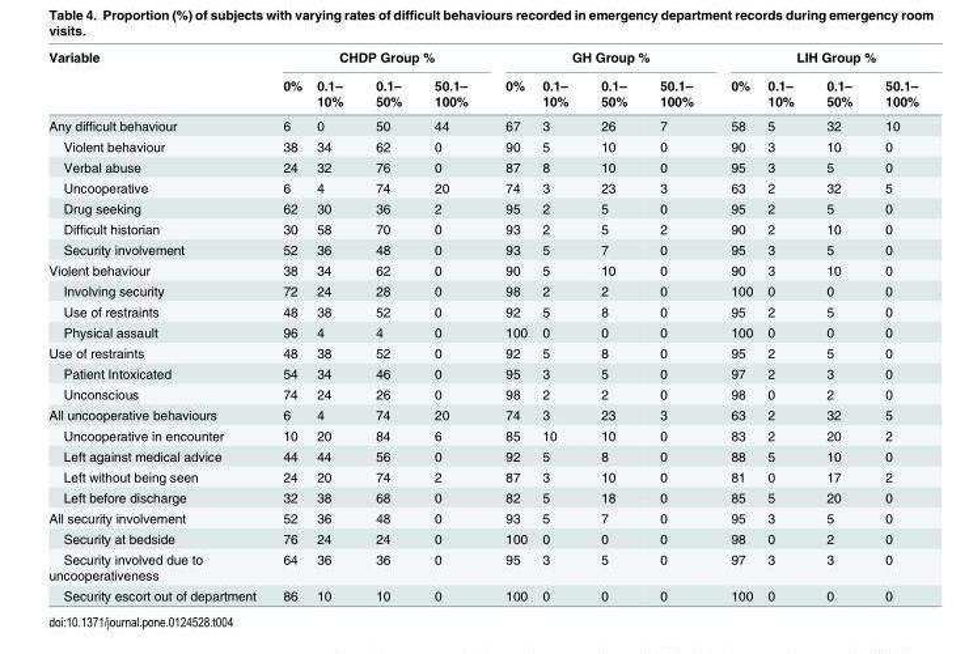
<table><thead><tr><td rowspan="2">Variable</td><td colspan="4">CHDP Group %</td><td colspan="4">GH Group %</td><td colspan="4">LIH Group %</td></tr><tr><td>0%</td><td>0.1– 10%</td><td>0.1– 50%</td><td>50.1– 100%</td><td>0%</td><td>0.1– 10%</td><td>0.1– 50%</td><td>50.1– 100%</td><td>0%</td><td>0.1– 10%</td><td>0.1– 50%</td><td>50.1– 100%</td></tr></thead><tbody><tr><td>Any difficult behaviour</td><td>6</td><td>0</td><td>50</td><td>44</td><td>67</td><td>3</td><td>26</td><td>7</td><td>58</td><td>5</td><td>32</td><td>10</td></tr><tr><td>Violent behaviour</td><td>38</td><td>34</td><td>62</td><td>0</td><td>90</td><td>5</td><td>10</td><td>0</td><td>90</td><td>3</td><td>10</td><td>0</td></tr><tr><td>Verbal abuse</td><td>24</td><td>32</td><td>76</td><td>0</td><td>87</td><td>8</td><td>10</td><td>0</td><td>95</td><td>3</td><td>5</td><td>0</td></tr><tr><td>Uncooperative</td><td>6</td><td>4</td><td>74</td><td>20</td><td>74</td><td>3</td><td>23</td><td>3</td><td>63</td><td>2</td><td>32</td><td>5</td></tr><tr><td>Drug seeking</td><td>62</td><td>30</td><td>36</td><td>2</td><td>95</td><td>2</td><td>5</td><td>0</td><td>95</td><td>2</td><td>5</td><td>0</td></tr><tr><td>Difficult historian</td><td>30</td><td>58</td><td>70</td><td>0</td><td>93</td><td>2</td><td>5</td><td>2</td><td>90</td><td>2</td><td>10</td><td>0</td></tr><tr><td>Security involvement</td><td>52</td><td>36</td><td>48</td><td>0</td><td>93</td><td>5</td><td>7</td><td>0</td><td>95</td><td>3</td><td>5</td><td>0</td></tr><tr><td>Violent behaviour</td><td>38</td><td>34</td><td>62</td><td>0</td><td>90</td><td>5</td><td>10</td><td>0</td><td>90</td><td>3</td><td>10</td><td>0</td></tr><tr><td>Involving security</td><td>72</td><td>24</td><td>28</td><td>0</td><td>98</td><td>2</td><td>2</td><td>0</td><td>100</td><td>0</td><td>0</td><td>0</td></tr><tr><td>Use of restraints</td><td>48</td><td>38</td><td>52</td><td>0</td><td>92</td><td>5</td><td>8</td><td>0</td><td>95</td><td>2</td><td>5</td><td>0</td></tr><tr><td>Physical assault</td><td>96</td><td>4</td><td>4</td><td>0</td><td>100</td><td>0</td><td>0</td><td>0</td><td>100</td><td>0</td><td>0</td><td>0</td></tr><tr><td>Use of restraints</td><td>48</td><td>38</td><td>52</td><td>0</td><td>92</td><td>5</td><td>8</td><td>0</td><td>95</td><td>2</td><td>5</td><td>0</td></tr><tr><td>Patient Intoxicated</td><td>54</td><td>34</td><td>46</td><td>0</td><td>95</td><td>3</td><td>5</td><td>0</td><td>97</td><td>2</td><td>3</td><td>0</td></tr><tr><td>Unconscious</td><td>74</td><td>24</td><td>26</td><td>0</td><td>98</td><td>2</td><td>2</td><td>0</td><td>98</td><td>0</td><td>2</td><td>0</td></tr><tr><td>All uncooperative behaviours</td><td>6</td><td>4</td><td>74</td><td>20</td><td>74</td><td>3</td><td>23</td><td>3</td><td>63</td><td>2</td><td>32</td><td>5</td></tr><tr><td>Uncooperative in encounter</td><td>10</td><td>20</td><td>84</td><td>6</td><td>85</td><td>10</td><td>10</td><td>0</td><td>83</td><td>2</td><td>20</td><td>2</td></tr><tr><td>Left against medical advice</td><td>44</td><td>44</td><td>56</td><td>0</td><td>92</td><td>5</td><td>8</td><td>0</td><td>88</td><td>5</td><td>10</td><td>0</td></tr><tr><td>Left without being seen</td><td>24</td><td>20</td><td>74</td><td>2</td><td>87</td><td>3</td><td>10</td><td>0</td><td>81</td><td>0</td><td>17</td><td>2</td></tr><tr><td>Left before discharge</td><td>32</td><td>38</td><td>68</td><td>0</td><td>82</td><td>5</td><td>18</td><td>0</td><td>85</td><td>5</td><td>20</td><td>0</td></tr><tr><td>All security involvement</td><td>52</td><td>36</td><td>48</td><td>0</td><td>93</td><td>5</td><td>7</td><td>0</td><td>95</td><td>3</td><td>5</td><td>0</td></tr><tr><td>Security at bedside</td><td>76</td><td>24</td><td>24</td><td>0</td><td>100</td><td>0</td><td>0</td><td>0</td><td>98</td><td>0</td><td>2</td><td>0</td></tr><tr><td>Security involved due to uncooperativeness</td><td>64</td><td>36</td><td>36</td><td>0</td><td>95</td><td>3</td><td>5</td><td>0</td><td>97</td><td>3</td><td>3</td><td>0</td></tr><tr><td>Security escort out of department</td><td>86</td><td>10</td><td>10</td><td>0</td><td>100</td><td>0</td><td>0</td><td>0</td><td>100</td><td>0</td><td>0</td><td>0</td></tr></tbody></table>